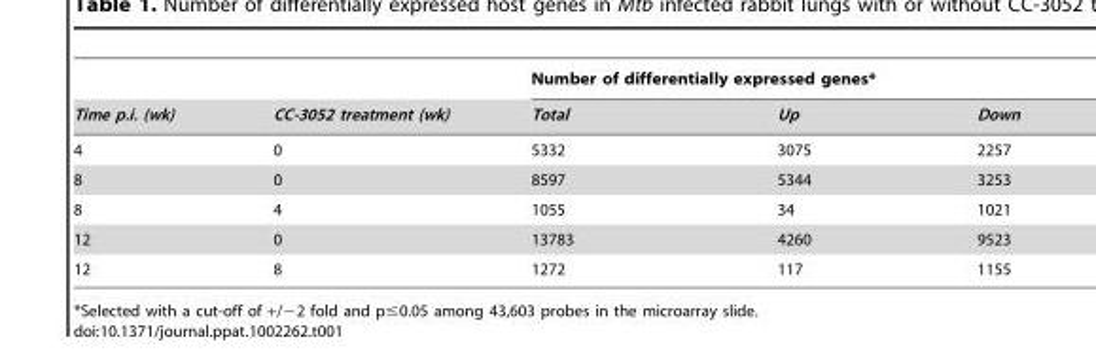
<table><thead><tr><td rowspan="2">Time p.i. (wk)</td><td rowspan="2">CC-3052 treatment (wk)</td><td colspan="3">Number of differentially expressed genes*</td></tr><tr><td>Total</td><td>Up</td><td>Down</td></tr></thead><tbody><tr><td>4</td><td>0</td><td>5332</td><td>3075</td><td>2257</td></tr><tr><td>8</td><td>0</td><td>8597</td><td>5344</td><td>3253</td></tr><tr><td>8</td><td>4</td><td>1055</td><td>34</td><td>1021</td></tr><tr><td>12</td><td>0</td><td>13783</td><td>4260</td><td>9523</td></tr><tr><td>12</td><td>8</td><td>1272</td><td>117</td><td>1155</td></tr></tbody></table>